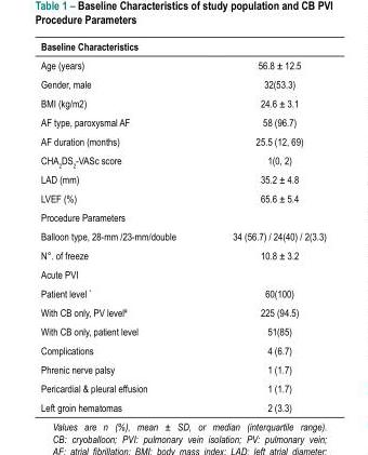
<table><thead><tr><td>Baseline Characteristics</td><td></td></tr></thead><tbody><tr><td>Age (years)</td><td>56.8 ± 12.5</td></tr><tr><td>Gender, male</td><td>32(53.3)</td></tr><tr><td>BMI (kg/m2)</td><td>24.6 ± 3.1</td></tr><tr><td>AF type, paroxysmal AF</td><td>58 (96.7)</td></tr><tr><td>AF duration (months)</td><td>25.5 (12, 69)</td></tr><tr><td>CHA<sub>2</sub>DS<sub>2</sub>-VASc score</td><td>1(0, 2)</td></tr><tr><td>LAD (mm)</td><td>35.2 ± 4.8</td></tr><tr><td>LVEF (%)</td><td>65.6 ± 5.4</td></tr><tr><td colspan="2">Procedure Parameters</td></tr><tr><td>Balloon type, 28-mm /23-mm/double</td><td>34 (56.7) / 24(40) / 2(3.3)</td></tr><tr><td>N°. of freeze</td><td>10.8 ± 3.2</td></tr><tr><td colspan="2">Acute PVI</td></tr><tr><td>Patient level *</td><td>60(100)</td></tr><tr><td>With CB only, PV level<sup>#</sup></td><td>225 (94.5)</td></tr><tr><td>With CB only, patient level</td><td>51(85)</td></tr><tr><td>Complications</td><td>4 (6.7)</td></tr><tr><td>Phrenic nerve palsy</td><td>1 (1.7)</td></tr><tr><td>Pericardial &amp; pleural effusion</td><td>1 (1.7)</td></tr><tr><td>Left groin hematomas</td><td>2 (3.3)</td></tr></tbody></table>